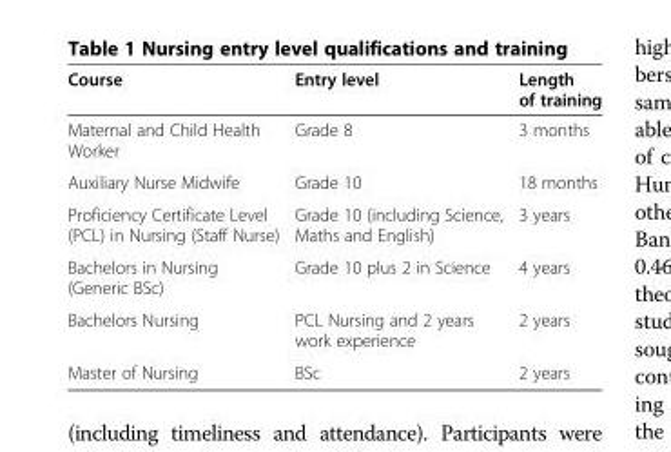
<table><thead><tr><td>Course</td><td>Entry level</td><td>Length of training</td></tr></thead><tbody><tr><td>Maternal and Child Health Worker</td><td>Grade 8</td><td>3 months</td></tr><tr><td>Auxiliary Nurse Midwife</td><td>Grade 10</td><td>18 months</td></tr><tr><td>Proficiency Certificate Level (PCL) in Nursing (Staff Nurse)</td><td>Grade 10 (including Science, Maths and English)</td><td>3 years</td></tr><tr><td>Bachelors in Nursing (Generic BSc)</td><td>Grade 10 plus 2 in Science</td><td>4 years</td></tr><tr><td>Bachelors Nursing</td><td>PCL Nursing and 2 years work experience</td><td>2 years</td></tr><tr><td>Master of Nursing</td><td>BSc</td><td>2 years</td></tr></tbody></table>